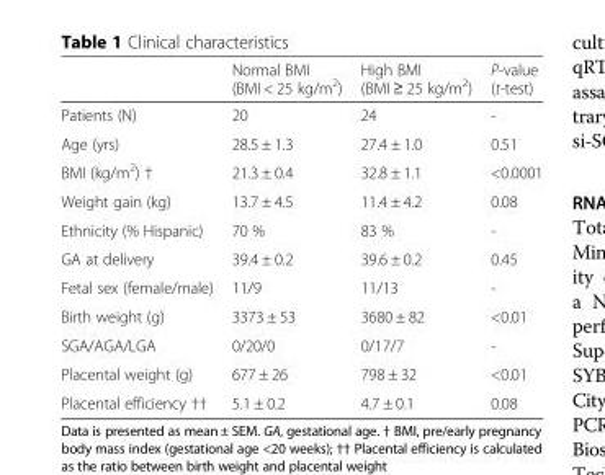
<table><thead><tr><td></td><td>Normal BMI (BMI &lt; 25 kg/m<sup>2</sup>)</td><td>High BMI (BMI ≥ 25 kg/m<sup>2</sup>)</td><td>P-value (t-test)</td></tr></thead><tbody><tr><td>Patients (N)</td><td>20</td><td>24</td><td>-</td></tr><tr><td>Age (yrs)</td><td>28.5 ± 1.3</td><td>27.4 ± 1.0</td><td>0.51</td></tr><tr><td>BMI (kg/m<sup>2</sup>) †</td><td>21.3 ± 0.4</td><td>32.8 ± 1.1</td><td>&lt;0.0001</td></tr><tr><td>Weight gain (kg)</td><td>13.7 ± 4.5</td><td>11.4 ± 4.2</td><td>0.08</td></tr><tr><td>Ethnicity (% Hispanic)</td><td>70 %</td><td>83 %</td><td>-</td></tr><tr><td>GA at delivery</td><td>39.4 ± 0.2</td><td>39.6 ± 0.2</td><td>0.45</td></tr><tr><td>Fetal sex (female/male)</td><td>11/9</td><td>11/13</td><td>-</td></tr><tr><td>Birth weight (g)</td><td>3373 ± 53</td><td>3680 ± 82</td><td>&lt;0.01</td></tr><tr><td>SGA/AGA/LGA</td><td>0/20/0</td><td>0/17/7</td><td>-</td></tr><tr><td>Placental weight (g)</td><td>677 ± 26</td><td>798 ± 32</td><td>&lt;0.01</td></tr><tr><td>Placental efficiency ††</td><td>5.1 ± 0.2</td><td>4.7 ± 0.1</td><td>0.08</td></tr></tbody></table>